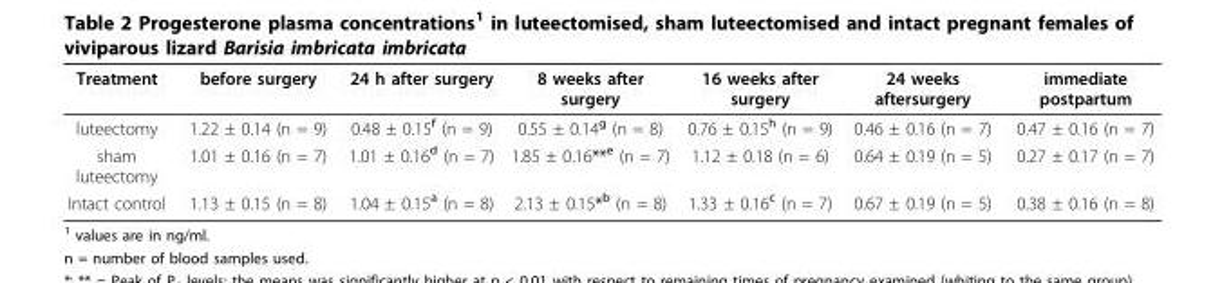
<table><thead><tr><td>Treatment</td><td>before surgery</td><td>24 h after surgery</td><td>8 weeks after surgery</td><td>16 weeks after surgery</td><td>24 weeks aftersurgery</td><td>immediate postpartum</td></tr></thead><tbody><tr><td>luteectomy</td><td>1.22 ± 0.14 (n = 9)</td><td>0.48 ± 0.15<sup>f</sup> (n = 9)</td><td>0.55 ± 0.14<sup>g</sup> (n = 8)</td><td>0.76 ± 0.15<sup>h</sup> (n = 9)</td><td>0.46 ± 0.16 (n = 7)</td><td>0.47 ± 0.16 (n = 7)</td></tr><tr><td>sham luteectomy</td><td>1.01 ± 0.16 (n = 7)</td><td>1.01 ± 0.16<sup>d</sup> (n = 7)</td><td>1.85 ± 0.16**<sup>e</sup> (n = 7)</td><td>1.12 ± 0.18 (n = 6)</td><td>0.64 ± 0.19 (n = 5)</td><td>0.27 ± 0.17 (n = 7)</td></tr><tr><td>Intact control</td><td>1.13 ± 0.15 (n = 8)</td><td>1.04 ± 0.15<sup>a</sup> (n = 8)</td><td>2.13 ± 0.15*<sup>b</sup> (n = 8)</td><td>1.33 ± 0.16<sup>c</sup> (n = 7)</td><td>0.67 ± 0.19 (n = 5)</td><td>0.38 ± 0.16 (n = 8)</td></tr></tbody></table>